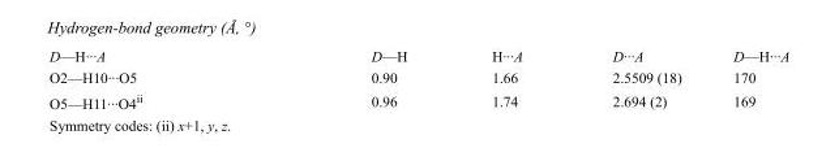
<table><tbody><tr><td>D—H···A</td><td>D—H</td><td>H···A</td><td>D···A</td><td>D—H···A</td></tr><tr><td>O2—H10···O5</td><td>0.90</td><td>1.66</td><td>2.5509 (18)</td><td>170</td></tr><tr><td>O5—H11···O4<sup>ii</sup></td><td>0.96</td><td>1.74</td><td>2.694 (2)</td><td>169</td></tr></tbody></table>